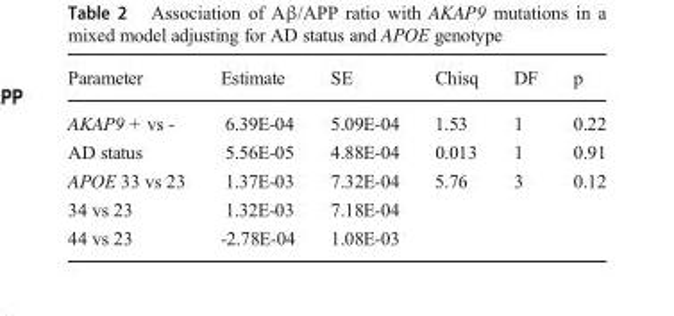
<table><thead><tr><td>Parameter</td><td>Estimate</td><td>SE</td><td>Chisq</td><td>DF</td><td>p</td></tr></thead><tbody><tr><td>AKAP9 + vs -</td><td>6.39E-04</td><td>5.09E-04</td><td>1.53</td><td>1</td><td>0.22</td></tr><tr><td>AD status</td><td>5.56E-05</td><td>4.88E-04</td><td>0.013</td><td>1</td><td>0.91</td></tr><tr><td>APOE 33 vs 23</td><td>1.37E-03</td><td>7.32E-04</td><td>5.76</td><td>3</td><td>0.12</td></tr><tr><td>34 vs 23</td><td>1.32E-03</td><td>7.18E-04</td><td></td><td></td><td></td></tr><tr><td>44 vs 23</td><td>-2.78E-04</td><td>1.08E-03</td><td></td><td></td><td></td></tr></tbody></table>